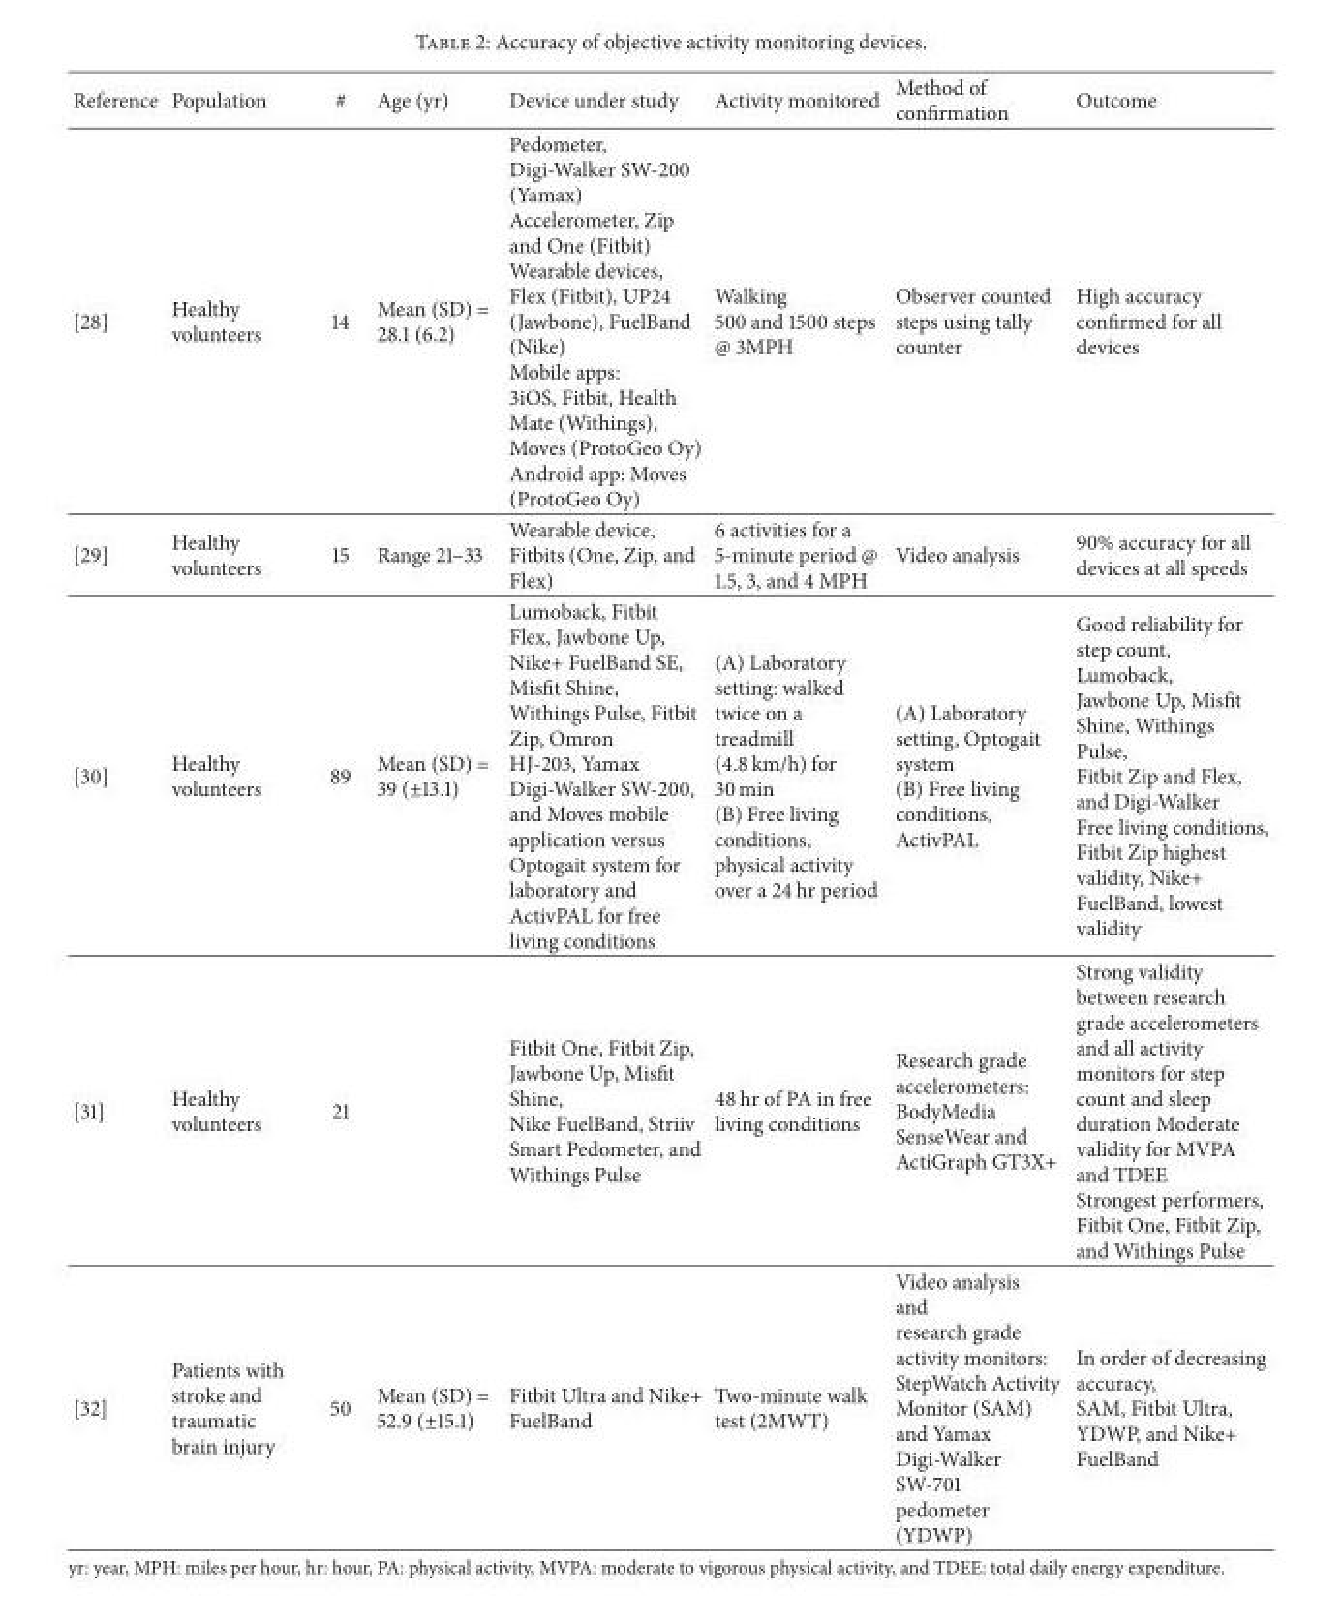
<table><thead><tr><td>Reference</td><td>Population</td><td>#</td><td>Age (yr)</td><td>Device under study</td><td>Activity monitored</td><td>Method of confirmation</td><td>Outcome</td></tr></thead><tbody><tr><td>[28]</td><td>Healthy volunteers</td><td>14</td><td>Mean (SD) = 28.1 (6.2)</td><td>Pedometer, Digi-Walker SW-200 (Yamax) Accelerometer, Zip and One (Fitbit) Wearable devices, Flex (Fitbit), UP24 (Jawbone), FuelBand (Nike) Mobile apps: 3iOS, Fitbit, Health Mate (Withings), Moves (ProtoGeo Oy) Android app: Moves (ProtoGeo Oy)</td><td>Walking 500 and 1500 steps @ 3MPH</td><td>Observer counted steps using tally counter</td><td>High accuracy confirmed for all devices</td></tr><tr><td>[29]</td><td>Healthy volunteers</td><td>15</td><td>Range 21–33</td><td>Wearable device, Fitbits (One, Zip, and Flex)</td><td>6 activities for a 5-minute period @ 1.5, 3, and 4 MPH</td><td>Video analysis</td><td>90% accuracy for all devices at all speeds</td></tr><tr><td>[30]</td><td>Healthy volunteers</td><td>89</td><td>Mean (SD) = 39 (±13.1)</td><td>Lumoback, Fitbit Flex, Jawbone Up, Nike+ FuelBand SE, Misfit Shine, Withings Pulse, Fitbit Zip, Omron HJ-203, Yamax Digi-Walker SW-200, and Moves mobile application versus Optogait system for laboratory and ActivPAL for free living conditions</td><td>(A) Laboratory setting: walked twice on a treadmill (4.8 km/h) for 30 min (B) Free living conditions, physical activity over a 24 hr period</td><td>(A) Laboratory setting, Optogait system (B) Free living conditions, ActivPAL</td><td>Good reliability for step count, Lumoback, Jawbone Up, Misfit Shine, Withings Pulse, Fitbit Zip and Flex, and Digi-Walker Free living conditions, Fitbit Zip highest validity, Nike+ FuelBand, lowest validity</td></tr><tr><td>[31]</td><td>Healthy volunteers</td><td>21</td><td></td><td>Fitbit One, Fitbit Zip, Jawbone Up, Misfit Shine, Nike FuelBand, Striiv Smart Pedometer, and Withings Pulse</td><td>48 hr of PA in free living conditions</td><td>Research grade accelerometers: BodyMedia SenseWear and ActiGraph GT3X+</td><td>Strong validity between research grade accelerometers and all activity monitors for step count and sleep duration Moderate validity for MVPA and TDEE Strongest performers, Fitbit One, Fitbit Zip, and Withings Pulse</td></tr><tr><td>[32]</td><td>Patients with stroke and traumatic brain injury</td><td>50</td><td>Mean (SD) = 52.9 (±15.1)</td><td>Fitbit Ultra and Nike+ FuelBand</td><td>Two-minute walk test (2MWT)</td><td>Video analysis and research grade activity monitors: StepWatch Activity Monitor (SAM) and Yamax Digi-Walker SW-701 pedometer (YDWP)</td><td>In order of decreasing accuracy, SAM, Fitbit Ultra, YDWP, and Nike+ FuelBand</td></tr></tbody></table>